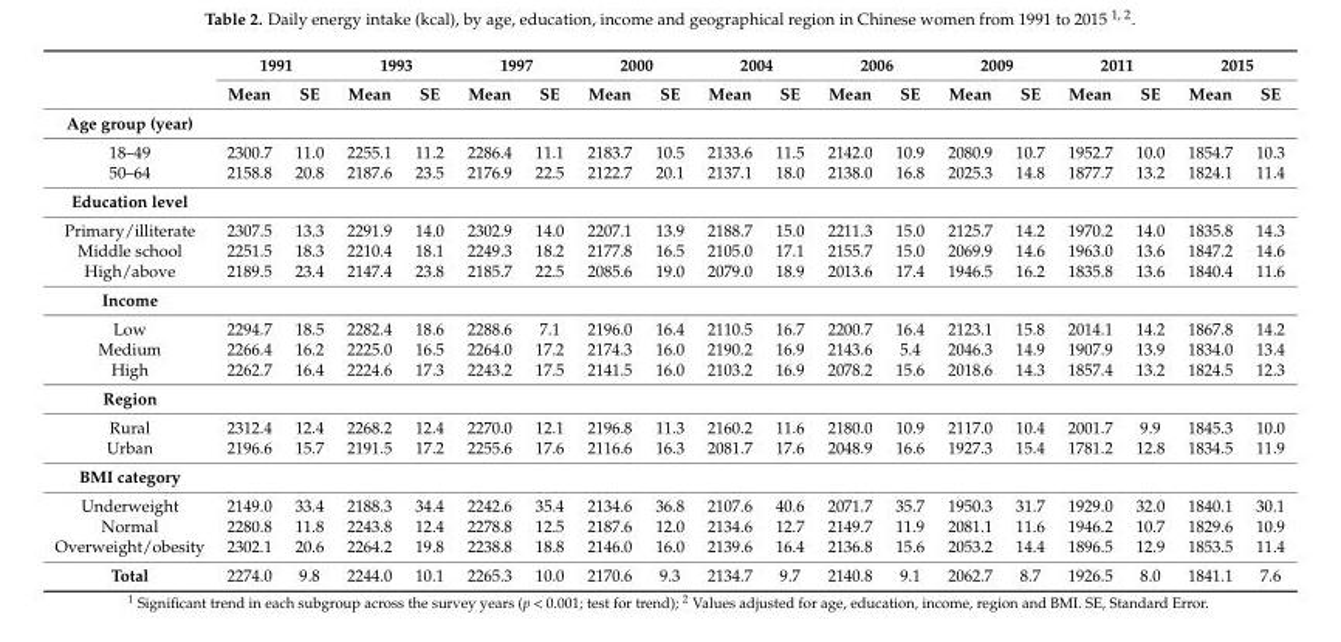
<table><thead><tr><td rowspan="2"></td><td colspan="2">1991</td><td colspan="2">1993</td><td colspan="2">1997</td><td colspan="2">2000</td><td colspan="2">2004</td><td colspan="2">2006</td><td colspan="2">2009</td><td colspan="2">2011</td><td colspan="2">2015</td></tr><tr><td>Mean</td><td>SE</td><td>Mean</td><td>SE</td><td>Mean</td><td>SE</td><td>Mean</td><td>SE</td><td>Mean</td><td>SE</td><td>Mean</td><td>SE</td><td>Mean</td><td>SE</td><td>Mean</td><td>SE</td><td>Mean</td><td>SE</td></tr></thead><tbody><tr><td colspan="19">Age group (year)</td></tr><tr><td>18–49</td><td>2300.7</td><td>11.0</td><td>2255.1</td><td>11.2</td><td>2286.4</td><td>11.1</td><td>2183.7</td><td>10.5</td><td>2133.6</td><td>11.5</td><td>2142.0</td><td>10.9</td><td>2080.9</td><td>10.7</td><td>1952.7</td><td>10.0</td><td>1854.7</td><td>10.3</td></tr><tr><td>50–64</td><td>2158.8</td><td>20.8</td><td>2187.6</td><td>23.5</td><td>2176.9</td><td>22.5</td><td>2122.7</td><td>20.1</td><td>2137.1</td><td>18.0</td><td>2138.0</td><td>16.8</td><td>2025.3</td><td>14.8</td><td>1877.7</td><td>13.2</td><td>1824.1</td><td>11.4</td></tr><tr><td colspan="19">Education level</td></tr><tr><td>Primary/illiterate</td><td>2307.5</td><td>13.3</td><td>2291.9</td><td>14.0</td><td>2302.9</td><td>14.0</td><td>2207.1</td><td>13.9</td><td>2188.7</td><td>15.0</td><td>2211.3</td><td>15.0</td><td>2125.7</td><td>14.2</td><td>1970.2</td><td>14.0</td><td>1835.8</td><td>14.3</td></tr><tr><td>Middle school</td><td>2251.5</td><td>18.3</td><td>2210.4</td><td>18.1</td><td>2249.3</td><td>18.2</td><td>2177.8</td><td>16.5</td><td>2105.0</td><td>17.1</td><td>2155.7</td><td>15.0</td><td>2069.9</td><td>14.6</td><td>1963.0</td><td>13.6</td><td>1847.2</td><td>14.6</td></tr><tr><td>High/above</td><td>2189.5</td><td>23.4</td><td>2147.4</td><td>23.8</td><td>2185.7</td><td>22.5</td><td>2085.6</td><td>19.0</td><td>2079.0</td><td>18.9</td><td>2013.6</td><td>17.4</td><td>1946.5</td><td>16.2</td><td>1835.8</td><td>13.6</td><td>1840.4</td><td>11.6</td></tr><tr><td colspan="19">Income</td></tr><tr><td>Low</td><td>2294.7</td><td>18.5</td><td>2282.4</td><td>18.6</td><td>2288.6</td><td>7.1</td><td>2196.0</td><td>16.4</td><td>2110.5</td><td>16.7</td><td>2200.7</td><td>16.4</td><td>2123.1</td><td>15.8</td><td>2014.1</td><td>14.2</td><td>1867.8</td><td>14.2</td></tr><tr><td>Medium</td><td>2266.4</td><td>16.2</td><td>2225.0</td><td>16.5</td><td>2264.0</td><td>17.2</td><td>2174.3</td><td>16.0</td><td>2190.2</td><td>16.9</td><td>2143.6</td><td>5.4</td><td>2046.3</td><td>14.9</td><td>1907.9</td><td>13.9</td><td>1834.0</td><td>13.4</td></tr><tr><td>High</td><td>2262.7</td><td>16.4</td><td>2224.6</td><td>17.3</td><td>2243.2</td><td>17.5</td><td>2141.5</td><td>16.0</td><td>2103.2</td><td>16.9</td><td>2078.2</td><td>15.6</td><td>2018.6</td><td>14.3</td><td>1857.4</td><td>13.2</td><td>1824.5</td><td>12.3</td></tr><tr><td colspan="19">Region</td></tr><tr><td>Rural</td><td>2312.4</td><td>12.4</td><td>2268.2</td><td>12.4</td><td>2270.0</td><td>12.1</td><td>2196.8</td><td>11.3</td><td>2160.2</td><td>11.6</td><td>2180.0</td><td>10.9</td><td>2117.0</td><td>10.4</td><td>2001.7</td><td>9.9</td><td>1845.3</td><td>10.0</td></tr><tr><td>Urban</td><td>2196.6</td><td>15.7</td><td>2191.5</td><td>17.2</td><td>2255.6</td><td>17.6</td><td>2116.6</td><td>16.3</td><td>2081.7</td><td>17.6</td><td>2048.9</td><td>16.6</td><td>1927.3</td><td>15.4</td><td>1781.2</td><td>12.8</td><td>1834.5</td><td>11.9</td></tr><tr><td colspan="19">BMI category</td></tr><tr><td>Underweight</td><td>2149.0</td><td>33.4</td><td>2188.3</td><td>34.4</td><td>2242.6</td><td>35.4</td><td>2134.6</td><td>36.8</td><td>2107.6</td><td>40.6</td><td>2071.7</td><td>35.7</td><td>1950.3</td><td>31.7</td><td>1929.0</td><td>32.0</td><td>1840.1</td><td>30.1</td></tr><tr><td>Normal</td><td>2280.8</td><td>11.8</td><td>2243.8</td><td>12.4</td><td>2278.8</td><td>12.5</td><td>2187.6</td><td>12.0</td><td>2134.6</td><td>12.7</td><td>2149.7</td><td>11.9</td><td>2081.1</td><td>11.6</td><td>1946.2</td><td>10.7</td><td>1829.6</td><td>10.9</td></tr><tr><td>Overweight/obesity</td><td>2302.1</td><td>20.6</td><td>2264.2</td><td>19.8</td><td>2238.8</td><td>18.8</td><td>2146.0</td><td>16.0</td><td>2139.6</td><td>16.4</td><td>2136.8</td><td>15.6</td><td>2053.2</td><td>14.4</td><td>1896.5</td><td>12.9</td><td>1853.5</td><td>11.4</td></tr><tr><td>Total</td><td>2274.0</td><td>9.8</td><td>2244.0</td><td>10.1</td><td>2265.3</td><td>10.0</td><td>2170.6</td><td>9.3</td><td>2134.7</td><td>9.7</td><td>2140.8</td><td>9.1</td><td>2062.7</td><td>8.7</td><td>1926.5</td><td>8.0</td><td>1841.1</td><td>7.6</td></tr></tbody></table>